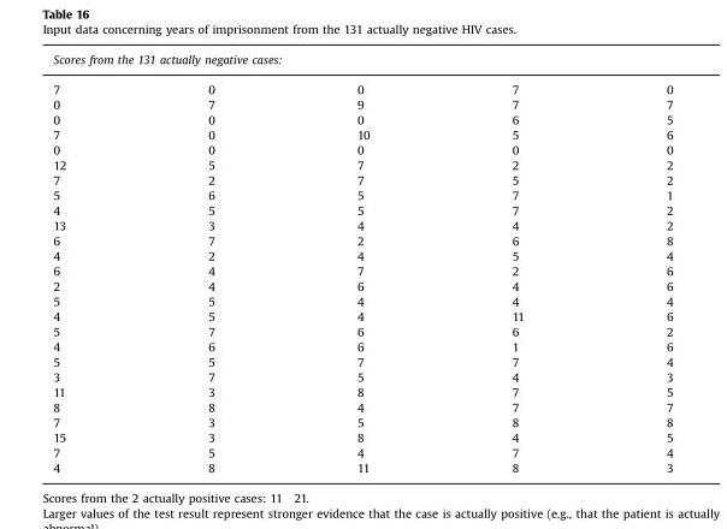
<table><thead><tr><td colspan="5">Scores from the 131 actually negative cases:</td></tr><tr><td>7</td><td>0</td><td>0</td><td>7</td><td>0</td></tr></thead><tbody><tr><td>0</td><td>7</td><td>9</td><td>7</td><td>7</td></tr><tr><td>0</td><td>0</td><td>0</td><td>6</td><td>5</td></tr><tr><td>7</td><td>0</td><td>10</td><td>5</td><td>6</td></tr><tr><td>0</td><td>0</td><td>0</td><td>0</td><td>0</td></tr><tr><td>12</td><td>5</td><td>7</td><td>2</td><td>2</td></tr><tr><td>7</td><td>2</td><td>7</td><td>5</td><td>2</td></tr><tr><td>5</td><td>6</td><td>5</td><td>7</td><td>1</td></tr><tr><td>4</td><td>5</td><td>5</td><td>7</td><td>2</td></tr><tr><td>13</td><td>3</td><td>4</td><td>4</td><td>2</td></tr><tr><td>6</td><td>7</td><td>2</td><td>6</td><td>8</td></tr><tr><td>4</td><td>2</td><td>4</td><td>5</td><td>4</td></tr><tr><td>6</td><td>4</td><td>7</td><td>2</td><td>6</td></tr><tr><td>2</td><td>4</td><td>6</td><td>4</td><td>6</td></tr><tr><td>5</td><td>5</td><td>4</td><td>4</td><td>4</td></tr><tr><td>4</td><td>5</td><td>4</td><td>11</td><td>6</td></tr><tr><td>5</td><td>7</td><td>6</td><td>6</td><td>2</td></tr><tr><td>4</td><td>6</td><td>6</td><td>1</td><td>6</td></tr><tr><td>5</td><td>5</td><td>7</td><td>7</td><td>4</td></tr><tr><td>3</td><td>7</td><td>5</td><td>4</td><td>3</td></tr><tr><td>11</td><td>3</td><td>8</td><td>7</td><td>5</td></tr><tr><td>8</td><td>8</td><td>4</td><td>7</td><td>7</td></tr><tr><td>7</td><td>3</td><td>5</td><td>8</td><td>8</td></tr><tr><td>15</td><td>3</td><td>8</td><td>4</td><td>5</td></tr><tr><td>7</td><td>5</td><td>4</td><td>7</td><td>4</td></tr><tr><td>4</td><td>8</td><td>11</td><td>8</td><td>3</td></tr></tbody></table>